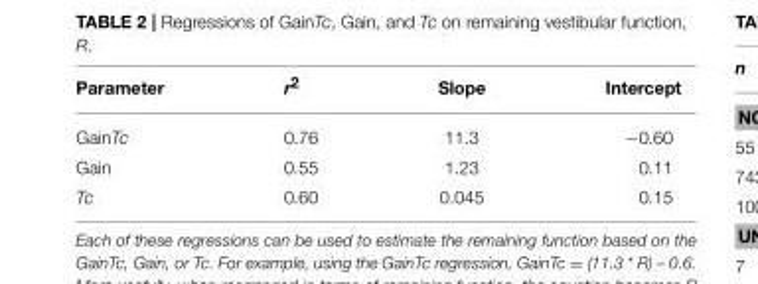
<table><thead><tr><td>Parameter</td><td>r<sup>2</sup></td><td>Slope</td><td>Intercept</td></tr></thead><tbody><tr><td>GainTc</td><td>0.76</td><td>11.3</td><td>−0.60</td></tr><tr><td>Gain</td><td>0.55</td><td>1.23</td><td>0.11</td></tr><tr><td>Tc</td><td>0.60</td><td>0.045</td><td>0.15</td></tr></tbody></table>